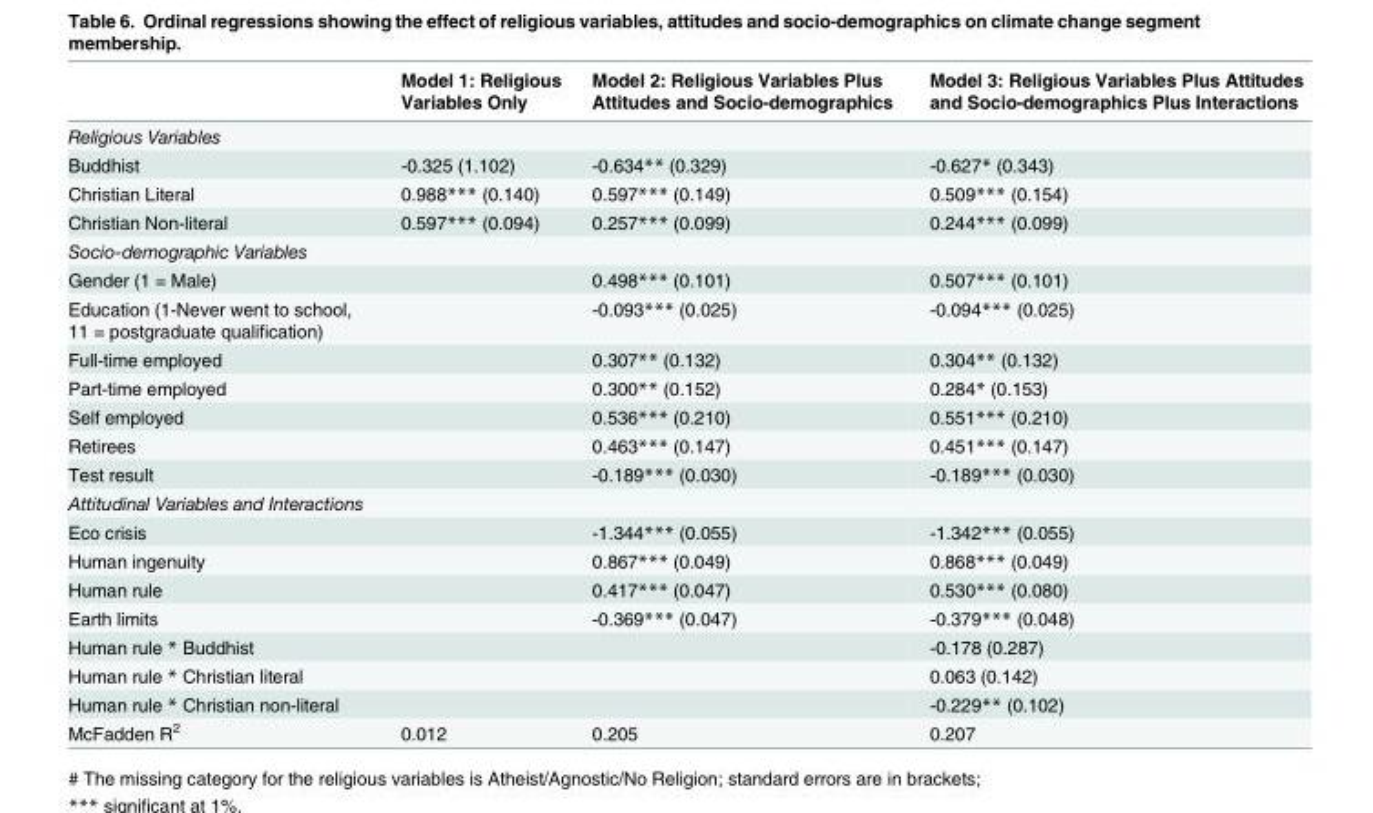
<table><thead><tr><td></td><td>Model 1: Religious Variables Only</td><td>Model 2: Religious Variables Plus Attitudes and Socio-demographics</td><td>Model 3: Religious Variables Plus Attitudes and Socio-demographics Plus Interactions</td></tr></thead><tbody><tr><td colspan="4">Religious Variables</td></tr><tr><td>Buddhist</td><td>-0.325 (1.102)</td><td>-0.634** (0.329)</td><td>-0.627* (0.343)</td></tr><tr><td>Christian Literal</td><td>0.988*** (0.140)</td><td>0.597*** (0.149)</td><td>0.509*** (0.154)</td></tr><tr><td>Christian Non-literal</td><td>0.597*** (0.094)</td><td>0.257*** (0.099)</td><td>0.244*** (0.099)</td></tr><tr><td colspan="4">Socio-demographic Variables</td></tr><tr><td>Gender (1 = Male)</td><td></td><td>0.498*** (0.101)</td><td>0.507*** (0.101)</td></tr><tr><td>Education (1-Never went to school, 11 = postgraduate qualification)</td><td></td><td>-0.093*** (0.025)</td><td>-0.094*** (0.025)</td></tr><tr><td>Full-time employed</td><td></td><td>0.307** (0.132)</td><td>0.304** (0.132)</td></tr><tr><td>Part-time employed</td><td></td><td>0.300** (0.152)</td><td>0.284* (0.153)</td></tr><tr><td>Self employed</td><td></td><td>0.536*** (0.210)</td><td>0.551*** (0.210)</td></tr><tr><td>Retirees</td><td></td><td>0.463*** (0.147)</td><td>0.451*** (0.147)</td></tr><tr><td>Test result</td><td></td><td>-0.189*** (0.030)</td><td>-0.189*** (0.030)</td></tr><tr><td colspan="4">Attitudinal Variables and Interactions</td></tr><tr><td>Eco crisis</td><td></td><td>-1.344*** (0.055)</td><td>-1.342*** (0.055)</td></tr><tr><td>Human ingenuity</td><td></td><td>0.867*** (0.049)</td><td>0.868*** (0.049)</td></tr><tr><td>Human rule</td><td></td><td>0.417*** (0.047)</td><td>0.530*** (0.080)</td></tr><tr><td>Earth limits</td><td></td><td>-0.369*** (0.047)</td><td>-0.379*** (0.048)</td></tr><tr><td>Human rule * Buddhist</td><td></td><td></td><td>-0.178 (0.287)</td></tr><tr><td>Human rule * Christian literal</td><td></td><td></td><td>0.063 (0.142)</td></tr><tr><td>Human rule * Christian non-literal</td><td></td><td></td><td>-0.229** (0.102)</td></tr><tr><td>McFadden R<sup>2</sup></td><td>0.012</td><td>0.205</td><td>0.207</td></tr></tbody></table>